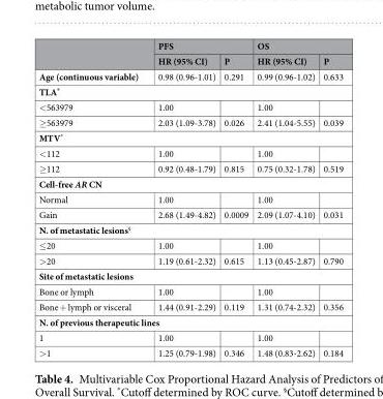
<table><thead><tr><td rowspan="2"></td><td colspan="2">PFS</td><td colspan="2">OS</td></tr><tr><td>HR (95% CI)</td><td>P</td><td>HR (95% CI)</td><td>P</td></tr></thead><tbody><tr><td>Age (continuous variable)</td><td>0.98 (0.96-1.01)</td><td>0.291</td><td>0.99 (0.96-1.02)</td><td>0.633</td></tr><tr><td colspan="5">TLA*</td></tr><tr><td>&lt;563979</td><td>1.00</td><td></td><td>1.00</td><td></td></tr><tr><td>≥563979</td><td>2.03 (1.09-3.78)</td><td>0.026</td><td>2.41 (1.04-5.55)</td><td>0.039</td></tr><tr><td colspan="5">MTV*</td></tr><tr><td>&lt;112</td><td>1.00</td><td></td><td>1.00</td><td></td></tr><tr><td>≥112</td><td>0.92 (0.48-1.79)</td><td>0.815</td><td>0.75 (0.32-1.78)</td><td>0.519</td></tr><tr><td colspan="5">Cell-free AR CN</td></tr><tr><td>Normal</td><td>1.00</td><td></td><td>1.00</td><td></td></tr><tr><td>Gain</td><td>2.68 (1.49-4.82)</td><td>0.0009</td><td>2.09 (1.07-4.10)</td><td>0.031</td></tr><tr><td colspan="5">N. of metastatic lesions<sup>§</sup></td></tr><tr><td>≤20</td><td>1.00</td><td></td><td>1.00</td><td></td></tr><tr><td>&gt;20</td><td>1.19 (0.61-2.32)</td><td>0.615</td><td>1.13 (0.45-2.87)</td><td>0.790</td></tr><tr><td colspan="5">Site of metastatic lesions</td></tr><tr><td>Bone or lymph</td><td>1.00</td><td></td><td>1.00</td><td></td></tr><tr><td>Bone + lymph or visceral</td><td>1.44 (0.91-2.29)</td><td>0.119</td><td>1.31 (0.74-2.32)</td><td>0.356</td></tr><tr><td colspan="5">N. of previous therapeutic lines</td></tr><tr><td>1</td><td>1.00</td><td></td><td>1.00</td><td></td></tr><tr><td>&gt;1</td><td>1.25 (0.79-1.98)</td><td>0.346</td><td>1.48 (0.83-2.62)</td><td>0.184</td></tr></tbody></table>